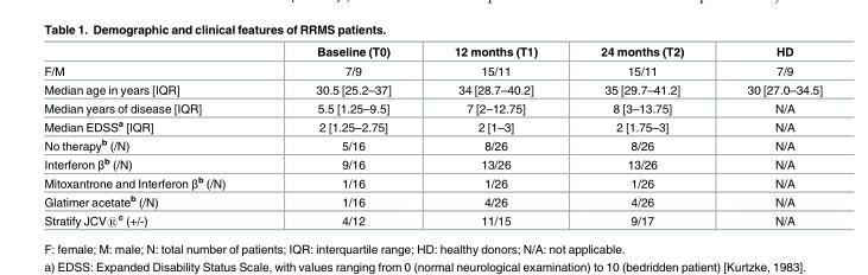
<table><thead><tr><td></td><td>Baseline (T0)</td><td>12 months (T1)</td><td>24 months (T2)</td><td>HD</td></tr></thead><tbody><tr><td>F/M</td><td>7/9</td><td>15/11</td><td>15/11</td><td>7/9</td></tr><tr><td>Median age in years [IQR]</td><td>30.5 [25.2–37]</td><td>34 [28.7–40.2]</td><td>35 [29.7–41.2]</td><td>30 [27.0–34.5]</td></tr><tr><td>Median years of disease [IQR]</td><td>5.5 [1.25–9.5]</td><td>7 [2–12.75]</td><td>8 [3–13.75]</td><td>N/A</td></tr><tr><td>Median EDSS<sup>a</sup> [IQR]</td><td>2 [1.25–2.75]</td><td>2 [1–3]</td><td>2 [1.75–3]</td><td>N/A</td></tr><tr><td>No therapy<sup>b</sup> (/N)</td><td>5/16</td><td>8/26</td><td>8/26</td><td>N/A</td></tr><tr><td>Interferon β<sup>b</sup> (/N)</td><td>9/16</td><td>13/26</td><td>13/26</td><td>N/A</td></tr><tr><td>Mitoxantrone and Interferon β<sup>b</sup> (/N)</td><td>1/16</td><td>1/26</td><td>1/26</td><td>N/A</td></tr><tr><td>Glatimer acetate<sup>b</sup> (/N)</td><td>1/16</td><td>4/26</td><td>4/26</td><td>N/A</td></tr><tr><td>Stratify JCV®<sup>c</sup> (+/-)</td><td>4/12</td><td>11/15</td><td>9/17</td><td>N/A</td></tr></tbody></table>